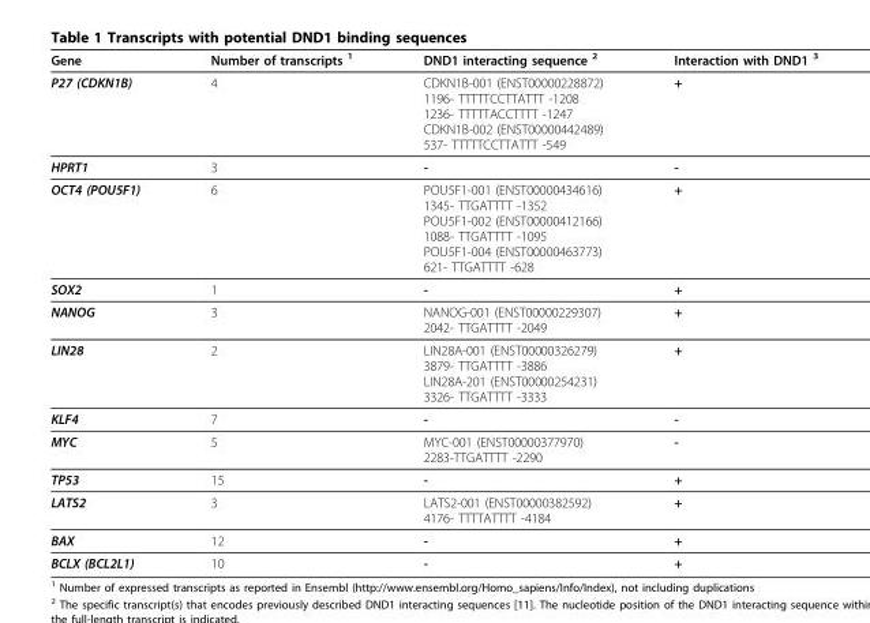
<table><thead><tr><td>Gene</td><td>Number of transcripts <sup>1</sup></td><td>DND1 interacting sequence <sup>2</sup></td><td>Interaction with DND1 <sup>3</sup></td></tr></thead><tbody><tr><td>P27 (CDKN1B)</td><td>4</td><td>CDKN1B-001 (ENST00000228872) 1196- TTTTTCCTTATTT -1208 1236- TTTTTACCTTTT -1247 CDKN1B-002 (ENST00000442489) 537- TTTTTCCTTATTT -549</td><td>+</td></tr><tr><td>HPRT1</td><td>3</td><td>-</td><td>-</td></tr><tr><td>OCT4 (POU5F1)</td><td>6</td><td>POU5F1-001 (ENST00000434616) 1345- TTGATTTT -1352 POU5F1-002 (ENST00000412166) 1088- TTGATTTT -1095 POU5F1-004 (ENST00000463773) 621- TTGATTTT -628</td><td>+</td></tr><tr><td>SOX2</td><td>1</td><td>-</td><td>+</td></tr><tr><td>NANOG</td><td>3</td><td>NANOG-001 (ENST00000229307) 2042- TTGATTTT -2049</td><td>+</td></tr><tr><td>LIN28</td><td>2</td><td>LIN28A-001 (ENST00000326279) 3879- TTGATTTT -3886 LIN28A-201 (ENST00000254231) 3326- TTGATTTT -3333</td><td>+</td></tr><tr><td>KLF4</td><td>7</td><td>-</td><td>-</td></tr><tr><td>MYC</td><td>5</td><td>MYC-001 (ENST00000377970) 2283-TTGATTTT -2290</td><td>-</td></tr><tr><td>TP53</td><td>15</td><td>-</td><td>+</td></tr><tr><td>LATS2</td><td>3</td><td>LATS2-001 (ENST00000382592) 4176- TTTTATTTT -4184</td><td>+</td></tr><tr><td>BAX</td><td>12</td><td>-</td><td>+</td></tr><tr><td>BCLX (BCL2L1)</td><td>10</td><td>-</td><td>+</td></tr></tbody></table>